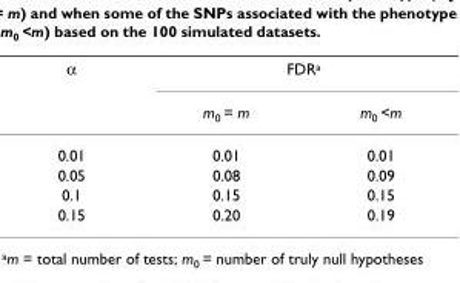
<table><thead><tr><td rowspan="2">α</td><td colspan="2">FDRa</td></tr><tr><td>m0 = m</td><td>m0 &lt;m</td></tr></thead><tbody><tr><td>0.01</td><td>0.01</td><td>0.01</td></tr><tr><td>0.05</td><td>0.08</td><td>0.09</td></tr><tr><td>0.1</td><td>0.15</td><td>0.15</td></tr><tr><td>0.15</td><td>0.20</td><td>0.19</td></tr></tbody></table>